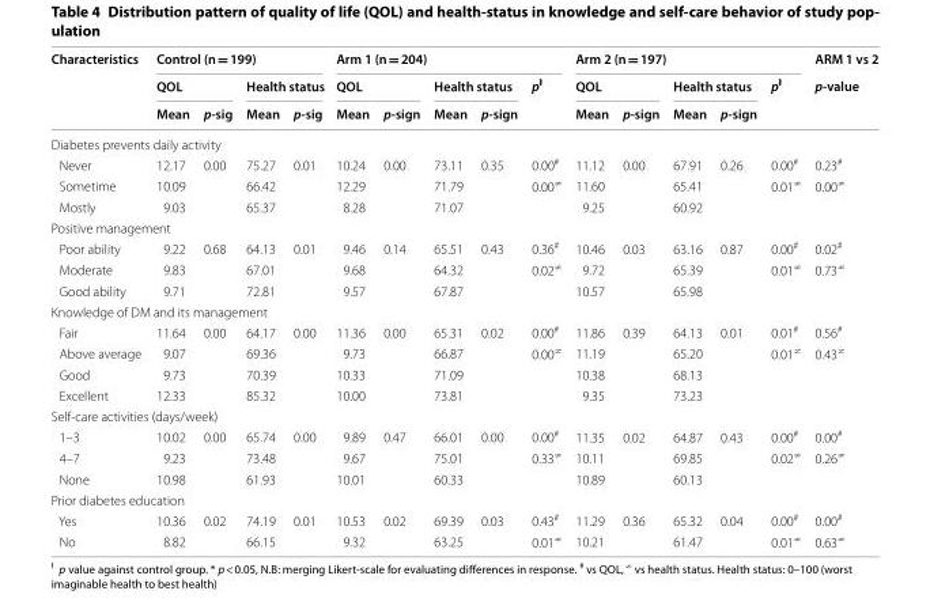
<table><thead><tr><td rowspan="3">Characteristics</td><td colspan="4">Control (n = 199)</td><td colspan="5">Arm 1 (n = 204)</td><td colspan="5">Arm 2 (n = 197)</td><td rowspan="3">ARM 1 vs 2 p-value</td></tr><tr><td colspan="2">QOL</td><td colspan="2">Health status</td><td colspan="2">QOL</td><td colspan="2">Health status</td><td rowspan="2">p<sup>ł</sup></td><td colspan="2">QOL</td><td colspan="2">Health status</td><td rowspan="2">p<sup>ł</sup></td></tr><tr><td>Mean</td><td>p-sig</td><td>Mean</td><td>p-sig</td><td>Mean</td><td>p-sign</td><td>Mean</td><td>p-sign</td><td>Mean</td><td>p-sign</td><td>Mean</td><td>p-sign</td></tr></thead><tbody><tr><td colspan="16">Diabetes prevents daily activity</td></tr><tr><td>Never</td><td>12.17</td><td>0.00</td><td>75.27</td><td>0.01</td><td>10.24</td><td>0.00</td><td>73.11</td><td>0.35</td><td>0.00<sup>#</sup></td><td>11.12</td><td>0.00</td><td>67.91</td><td>0.26</td><td>0.00<sup>#</sup></td><td>0.23<sup>#</sup></td></tr><tr><td>Sometime</td><td>10.09</td><td></td><td>66.42</td><td></td><td>12.29</td><td></td><td>71.79</td><td></td><td>0.00<sup>≠</sup></td><td>11.60</td><td></td><td>65.41</td><td></td><td>0.01<sup>≠</sup></td><td>0.00<sup>≠</sup></td></tr><tr><td>Mostly</td><td>9.03</td><td></td><td>65.37</td><td></td><td>8.28</td><td></td><td>71.07</td><td></td><td></td><td>9.25</td><td></td><td>60.92</td><td></td><td></td><td></td></tr><tr><td colspan="16">Positive management</td></tr><tr><td>Poor ability</td><td>9.22</td><td>0.68</td><td>64.13</td><td>0.01</td><td>9.46</td><td>0.14</td><td>65.51</td><td>0.43</td><td>0.36<sup>#</sup></td><td>10.46</td><td>0.03</td><td>63.16</td><td>0.87</td><td>0.00<sup>#</sup></td><td>0.02<sup>#</sup></td></tr><tr><td>Moderate</td><td>9.83</td><td></td><td>67.01</td><td></td><td>9.68</td><td></td><td>64.32</td><td></td><td>0.02<sup>≠</sup></td><td>9.72</td><td></td><td>65.39</td><td></td><td>0.01<sup>≠</sup></td><td>0.73<sup>≠</sup></td></tr><tr><td>Good ability</td><td>9.71</td><td></td><td>72.81</td><td></td><td>9.57</td><td></td><td>67.87</td><td></td><td></td><td>10.57</td><td></td><td>65.98</td><td></td><td></td><td></td></tr><tr><td colspan="16">Knowledge of DM and its management</td></tr><tr><td>Fair</td><td>11.64</td><td>0.00</td><td>64.17</td><td>0.00</td><td>11.36</td><td>0.00</td><td>65.31</td><td>0.02</td><td>0.00<sup>#</sup></td><td>11.86</td><td>0.39</td><td>64.13</td><td>0.01</td><td>0.01<sup>#</sup></td><td>0.56<sup>#</sup></td></tr><tr><td>Above average</td><td>9.07</td><td></td><td>69.36</td><td></td><td>9.73</td><td></td><td>66.87</td><td></td><td>0.00<sup>≠</sup></td><td>11.19</td><td></td><td>65.20</td><td></td><td>0.01<sup>≠</sup></td><td>0.43<sup>≠</sup></td></tr><tr><td>Good</td><td>9.73</td><td></td><td>70.39</td><td></td><td>10.33</td><td></td><td>71.09</td><td></td><td></td><td>10.38</td><td></td><td>68.13</td><td></td><td></td><td></td></tr><tr><td>Excellent</td><td>12.33</td><td></td><td>85.32</td><td></td><td>10.00</td><td></td><td>73.81</td><td></td><td></td><td>9.35</td><td></td><td>73.23</td><td></td><td></td><td></td></tr><tr><td colspan="16">Self-care activities (days/week)</td></tr><tr><td>1–3</td><td>10.02</td><td>0.00</td><td>65.74</td><td>0.00</td><td>9.89</td><td>0.47</td><td>66.01</td><td>0.00</td><td>0.00<sup>#</sup></td><td>11.35</td><td>0.02</td><td>64.87</td><td>0.43</td><td>0.00<sup>#</sup></td><td>0.00<sup>#</sup></td></tr><tr><td>4–7</td><td>9.23</td><td></td><td>73.48</td><td></td><td>9.67</td><td></td><td>75.01</td><td></td><td>0.33<sup>≠</sup></td><td>10.11</td><td></td><td>69.85</td><td></td><td>0.02<sup>≠</sup></td><td>0.26<sup>≠</sup></td></tr><tr><td>None</td><td>10.98</td><td></td><td>61.93</td><td></td><td>10.01</td><td></td><td>60.33</td><td></td><td></td><td>10.89</td><td></td><td>60.13</td><td></td><td></td><td></td></tr><tr><td colspan="16">Prior diabetes education</td></tr><tr><td>Yes</td><td>10.36</td><td>0.02</td><td>74.19</td><td>0.01</td><td>10.53</td><td>0.02</td><td>69.39</td><td>0.03</td><td>0.43<sup>#</sup></td><td>11.29</td><td>0.36</td><td>65.32</td><td>0.04</td><td>0.00<sup>#</sup></td><td>0.00<sup>#</sup></td></tr><tr><td>No</td><td>8.82</td><td></td><td>66.15</td><td></td><td>9.32</td><td></td><td>63.25</td><td></td><td>0.01<sup>≠</sup></td><td>10.21</td><td></td><td>61.47</td><td></td><td>0.01<sup>≠</sup></td><td>0.63<sup>≠</sup></td></tr></tbody></table>